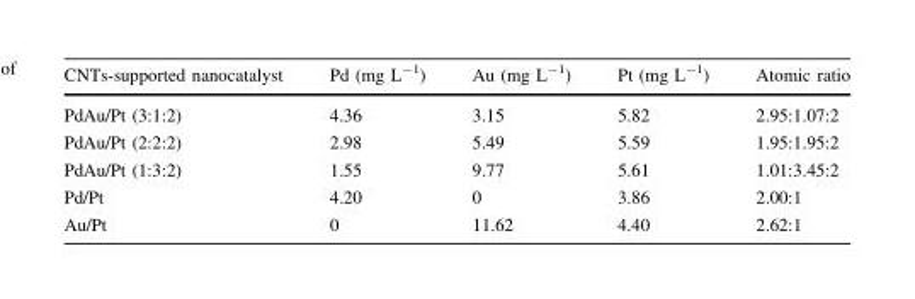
<table><thead><tr><td>CNTs-supported nanocatalyst</td><td>Pd (mg L<sup>-1</sup>)</td><td>Au (mg L<sup>-1</sup>)</td><td>Pt (mg L<sup>-1</sup>)</td><td>Atomic ratio</td></tr></thead><tbody><tr><td>PdAu/Pt (3:1:2)</td><td>4.36</td><td>3.15</td><td>5.82</td><td>2.95:1.07:2</td></tr><tr><td>PdAu/Pt (2:2:2)</td><td>2.98</td><td>5.49</td><td>5.59</td><td>1.95:1.95:2</td></tr><tr><td>PdAu/Pt (1:3:2)</td><td>1.55</td><td>9.77</td><td>5.61</td><td>1.01:3.45:2</td></tr><tr><td>Pd/Pt</td><td>4.20</td><td>0</td><td>3.86</td><td>2.00:1</td></tr><tr><td>Au/Pt</td><td>0</td><td>11.62</td><td>4.40</td><td>2.62:1</td></tr></tbody></table>